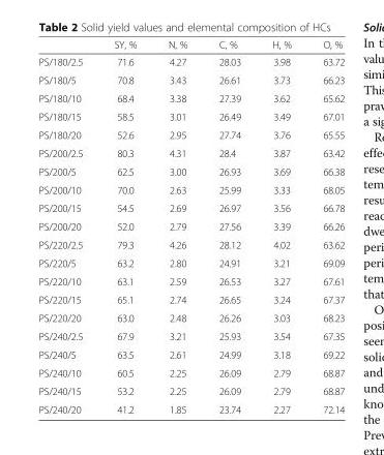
<table><thead><tr><td></td><td>SY, %</td><td>N, %</td><td>C, %</td><td>H, %</td><td>O, %</td></tr></thead><tbody><tr><td>PS/180/2.5</td><td>71.6</td><td>4.27</td><td>28.03</td><td>3.98</td><td>63.72</td></tr><tr><td>PS/180/5</td><td>70.8</td><td>3.43</td><td>26.61</td><td>3.73</td><td>66.23</td></tr><tr><td>PS/180/10</td><td>68.4</td><td>3.38</td><td>27.39</td><td>3.62</td><td>65.62</td></tr><tr><td>PS/180/15</td><td>58.5</td><td>3.01</td><td>26.49</td><td>3.49</td><td>67.01</td></tr><tr><td>PS/180/20</td><td>52.6</td><td>2.95</td><td>27.74</td><td>3.76</td><td>65.55</td></tr><tr><td>PS/200/2.5</td><td>80.3</td><td>4.31</td><td>28.4</td><td>3.87</td><td>63.42</td></tr><tr><td>PS/200/5</td><td>62.5</td><td>3.00</td><td>26.93</td><td>3.69</td><td>66.38</td></tr><tr><td>PS/200/10</td><td>70.0</td><td>2.63</td><td>25.99</td><td>3.33</td><td>68.05</td></tr><tr><td>PS/200/15</td><td>54.5</td><td>2.69</td><td>26.97</td><td>3.56</td><td>66.78</td></tr><tr><td>PS/200/20</td><td>52.0</td><td>2.79</td><td>27.56</td><td>3.39</td><td>66.26</td></tr><tr><td>PS/220/2.5</td><td>79.3</td><td>4.26</td><td>28.12</td><td>4.02</td><td>63.62</td></tr><tr><td>PS/220/5</td><td>63.2</td><td>2.80</td><td>24.91</td><td>3.21</td><td>69.09</td></tr><tr><td>PS/220/10</td><td>63.1</td><td>2.59</td><td>26.53</td><td>3.27</td><td>67.61</td></tr><tr><td>PS/220/15</td><td>65.1</td><td>2.74</td><td>26.65</td><td>3.24</td><td>67.37</td></tr><tr><td>PS/220/20</td><td>63.0</td><td>2.48</td><td>26.26</td><td>3.03</td><td>68.23</td></tr><tr><td>PS/240/2.5</td><td>67.9</td><td>3.21</td><td>25.93</td><td>3.54</td><td>67.35</td></tr><tr><td>PS/240/5</td><td>63.5</td><td>2.61</td><td>24.99</td><td>3.18</td><td>69.22</td></tr><tr><td>PS/240/10</td><td>60.5</td><td>2.25</td><td>26.09</td><td>2.79</td><td>68.87</td></tr><tr><td>PS/240/15</td><td>53.2</td><td>2.25</td><td>26.09</td><td>2.79</td><td>68.87</td></tr><tr><td>PS/240/20</td><td>41.2</td><td>1.85</td><td>23.74</td><td>2.27</td><td>72.14</td></tr></tbody></table>